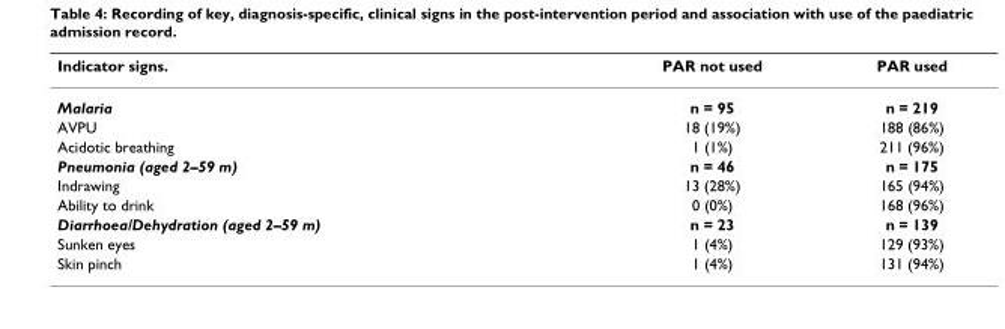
<table><thead><tr><td>Indicator signs.</td><td>PAR not used</td><td>PAR used</td></tr></thead><tbody><tr><td>Malaria</td><td>n = 95</td><td>n = 219</td></tr><tr><td>AVPU</td><td>18 (19%)</td><td>188 (86%)</td></tr><tr><td>Acidotic breathing</td><td>1 (1%)</td><td>211 (96%)</td></tr><tr><td>Pneumonia (aged 2–59 m)</td><td>n = 46</td><td>n = 175</td></tr><tr><td>Indrawing</td><td>13 (28%)</td><td>165 (94%)</td></tr><tr><td>Ability to drink</td><td>0 (0%)</td><td>168 (96%)</td></tr><tr><td>Diarrhoea/Dehydration (aged 2–59 m)</td><td>n = 23</td><td>n = 139</td></tr><tr><td>Sunken eyes</td><td>1 (4%)</td><td>129 (93%)</td></tr><tr><td>Skin pinch</td><td>1 (4%)</td><td>131 (94%)</td></tr></tbody></table>